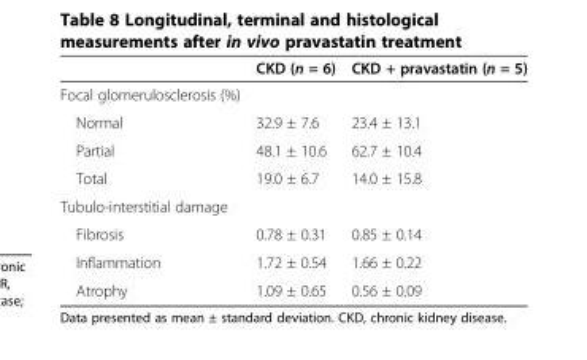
<table><thead><tr><td></td><td>CKD (n = 6)</td><td>CKD + pravastatin (n = 5)</td></tr></thead><tbody><tr><td colspan="3">Focal glomerulosclerosis (%)</td></tr><tr><td>Normal</td><td>32.9 ± 7.6</td><td>23.4 ± 13.1</td></tr><tr><td>Partial</td><td>48.1 ± 10.6</td><td>62.7 ± 10.4</td></tr><tr><td>Total</td><td>19.0 ± 6.7</td><td>14.0 ± 15.8</td></tr><tr><td colspan="3">Tubulo-interstitial damage</td></tr><tr><td>Fibrosis</td><td>0.78 ± 0.31</td><td>0.85 ± 0.14</td></tr><tr><td>Inflammation</td><td>1.72 ± 0.54</td><td>1.66 ± 0.22</td></tr><tr><td>Atrophy</td><td>1.09 ± 0.65</td><td>0.56 ± 0.09</td></tr></tbody></table>